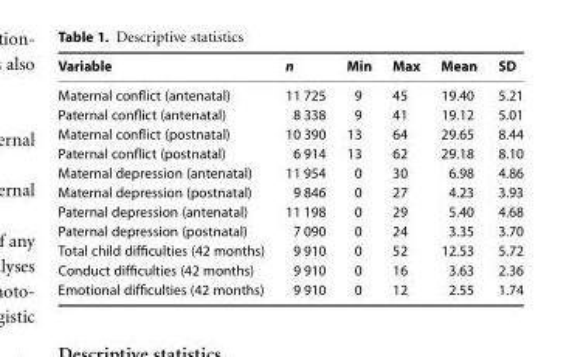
<table><thead><tr><td>Variable</td><td>n</td><td>Min</td><td>Max</td><td>Mean</td><td>SD</td></tr></thead><tbody><tr><td>Maternal conflict (antenatal)</td><td>11 725</td><td>9</td><td>45</td><td>19.40</td><td>5.21</td></tr><tr><td>Paternal conflict (antenatal)</td><td>8 338</td><td>9</td><td>41</td><td>19.12</td><td>5.01</td></tr><tr><td>Maternal conflict (postnatal)</td><td>10 390</td><td>13</td><td>64</td><td>29.65</td><td>8.44</td></tr><tr><td>Paternal conflict (postnatal)</td><td>6 914</td><td>13</td><td>62</td><td>29.18</td><td>8.10</td></tr><tr><td>Maternal depression (antenatal)</td><td>11 954</td><td>0</td><td>30</td><td>6.98</td><td>4.86</td></tr><tr><td>Maternal depression (postnatal)</td><td>9 846</td><td>0</td><td>27</td><td>4.23</td><td>3.93</td></tr><tr><td>Paternal depression (antenatal)</td><td>11 198</td><td>0</td><td>29</td><td>5.40</td><td>4.68</td></tr><tr><td>Paternal depression (postnatal)</td><td>7 090</td><td>0</td><td>24</td><td>3.35</td><td>3.70</td></tr><tr><td>Total child difficulties (42 months)</td><td>9 910</td><td>0</td><td>52</td><td>12.53</td><td>5.72</td></tr><tr><td>Conduct difficulties (42 months)</td><td>9 910</td><td>0</td><td>16</td><td>3.63</td><td>2.36</td></tr><tr><td>Emotional difficulties (42 months)</td><td>9 910</td><td>0</td><td>12</td><td>2.55</td><td>1.74</td></tr></tbody></table>